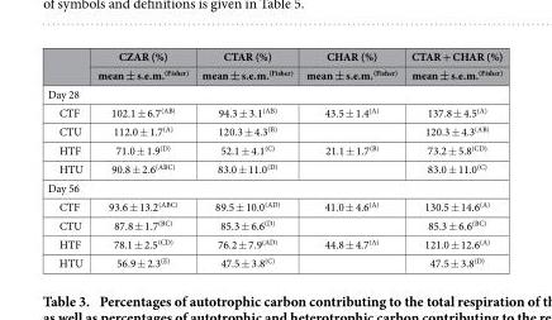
<table><thead><tr><td rowspan="2"></td><td rowspan="2">CZAR (%) mean ± s.e.m.<sup>(Fisher)</sup></td><td rowspan="2">CTAR (%) mean ± s.e.m.<sup>(Fisher)</sup></td><td rowspan="2">CHAR (%) mean ± s.e.m.<sup>(Fisher)</sup></td><td rowspan="2">CTAR + CHAR (%) mean ± s.e.m.<sup>(Fisher)</sup></td></tr><tr></tr></thead><tbody><tr><td colspan="5">Day 28</td></tr><tr><td>CTF</td><td>102.1 ± 6.7<sup>(AB)</sup></td><td>94.3 ± 3.1<sup>(AB)</sup></td><td>43.5 ± 1.4<sup>(A)</sup></td><td>137.8 ± 4.5<sup>(A)</sup></td></tr><tr><td>CTU</td><td>112.0 ± 1.7<sup>(A)</sup></td><td>120.3 ± 4.3<sup>(B)</sup></td><td></td><td>120.3 ± 4.3<sup>(AB)</sup></td></tr><tr><td>HTF</td><td>71.0 ± 1.9<sup>(D)</sup></td><td>52.1 ± 4.1<sup>(C)</sup></td><td>21.1 ± 1.7<sup>(B)</sup></td><td>73.2 ± 5.8<sup>(CD)</sup></td></tr><tr><td>HTU</td><td>90.8 ± 2.6<sup>(ABC)</sup></td><td>83.0 ± 11.0<sup>(D)</sup></td><td></td><td>83.0 ± 11.0<sup>(C)</sup></td></tr><tr><td colspan="5">Day 56</td></tr><tr><td>CTF</td><td>93.6 ± 13.2<sup>(ABC)</sup></td><td>89.5 ± 10.0<sup>(AD)</sup></td><td>41.0 ± 4.6<sup>(A)</sup></td><td>130.5 ± 14.6<sup>(A)</sup></td></tr><tr><td>CTU</td><td>87.8 ± 1.7<sup>(BC)</sup></td><td>85.3 ± 6.6<sup>(D)</sup></td><td></td><td>85.3 ± 6.6<sup>(BC)</sup></td></tr><tr><td>HTF</td><td>78.1 ± 2.5<sup>(CD)</sup></td><td>76.2 ± 7.9<sup>(AD)</sup></td><td>44.8 ± 4.7<sup>(A)</sup></td><td>121.0 ± 12.6<sup>(A)</sup></td></tr><tr><td>HTU</td><td>56.9 ± 2.3<sup>(E)</sup></td><td>47.5 ± 3.8<sup>(C)</sup></td><td></td><td>47.5 ± 3.8<sup>(D)</sup></td></tr></tbody></table>